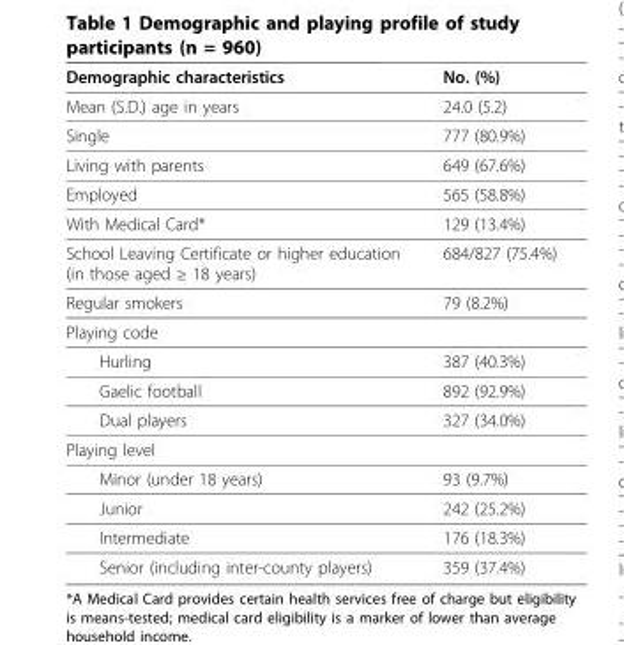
<table><thead><tr><td>Demographic characteristics</td><td>No. (%)</td></tr></thead><tbody><tr><td>Mean (S.D.) age in years</td><td>24.0 (5.2)</td></tr><tr><td>Single</td><td>777 (80.9%)</td></tr><tr><td>Living with parents</td><td>649 (67.6%)</td></tr><tr><td>Employed</td><td>565 (58.8%)</td></tr><tr><td>With Medical Card*</td><td>129 (13.4%)</td></tr><tr><td>School Leaving Certificate or higher education (in those aged ≥ 18 years)</td><td>684/827 (75.4%)</td></tr><tr><td>Regular smokers</td><td>79 (8.2%)</td></tr><tr><td colspan="2">Playing code</td></tr><tr><td>Hurling</td><td>387 (40.3%)</td></tr><tr><td>Gaelic football</td><td>892 (92.9%)</td></tr><tr><td>Dual players</td><td>327 (34.0%)</td></tr><tr><td colspan="2">Playing level</td></tr><tr><td>Minor (under 18 years)</td><td>93 (9.7%)</td></tr><tr><td>Junior</td><td>242 (25.2%)</td></tr><tr><td>Intermediate</td><td>176 (18.3%)</td></tr><tr><td>Senior (including inter-county players)</td><td>359 (37.4%)</td></tr></tbody></table>